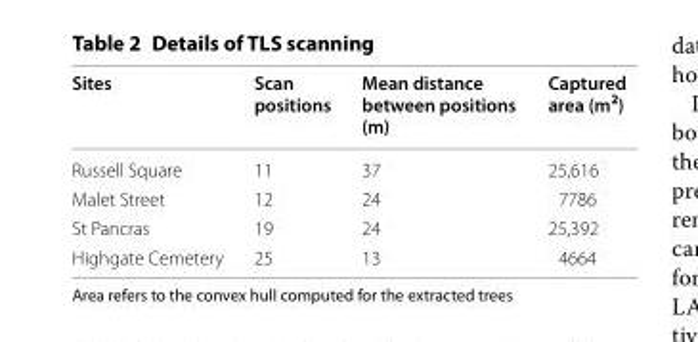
<table><thead><tr><td>Sites</td><td>Scan positions</td><td>Mean distance between positions (m)</td><td>Captured area (m<sup>2</sup>)</td></tr></thead><tbody><tr><td>Russell Square</td><td>11</td><td>37</td><td>25,616</td></tr><tr><td>Malet Street</td><td>12</td><td>24</td><td>7786</td></tr><tr><td>St Pancras</td><td>19</td><td>24</td><td>25,392</td></tr><tr><td>Highgate Cemetery</td><td>25</td><td>13</td><td>4664</td></tr></tbody></table>